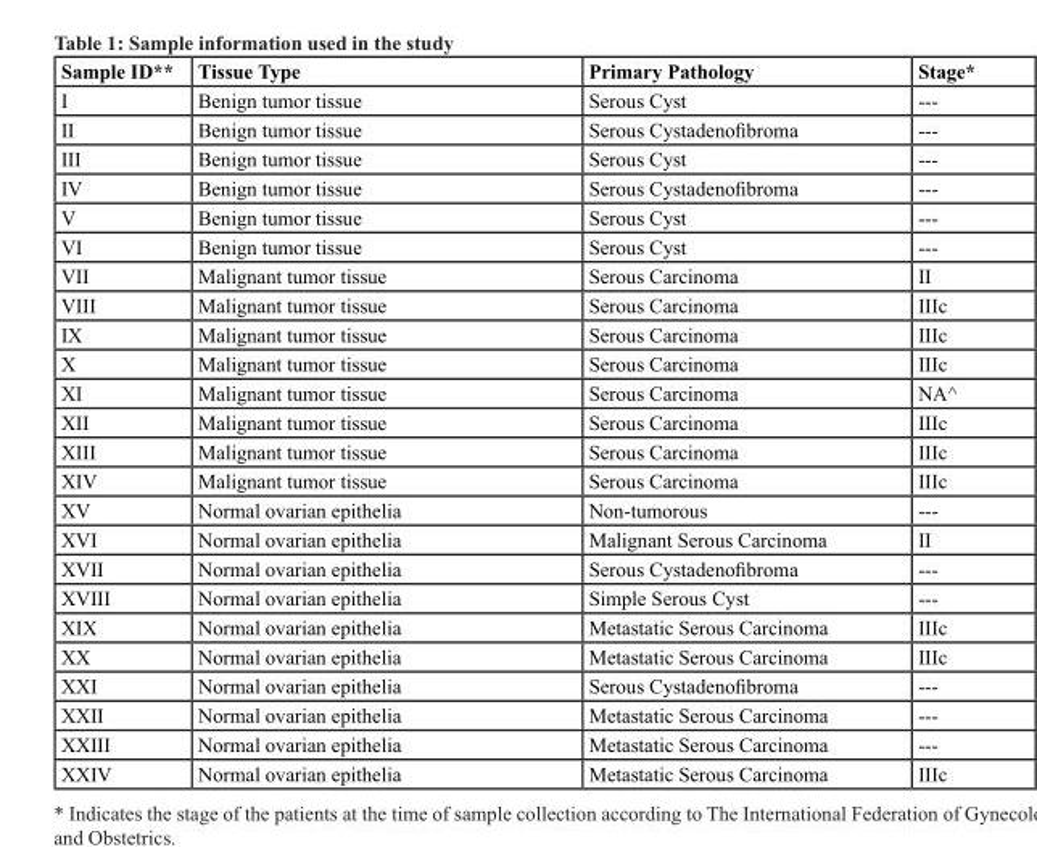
<table><thead><tr><td>Sample ID**</td><td>Tissue Type</td><td>Primary Pathology</td><td>Stage*</td></tr></thead><tbody><tr><td>I</td><td>Benign tumor tissue</td><td>Serous Cyst</td><td>---</td></tr><tr><td>II</td><td>Benign tumor tissue</td><td>Serous Cystadenofibroma</td><td>---</td></tr><tr><td>III</td><td>Benign tumor tissue</td><td>Serous Cyst</td><td>---</td></tr><tr><td>IV</td><td>Benign tumor tissue</td><td>Serous Cystadenofibroma</td><td>---</td></tr><tr><td>V</td><td>Benign tumor tissue</td><td>Serous Cyst</td><td>---</td></tr><tr><td>VI</td><td>Benign tumor tissue</td><td>Serous Cyst</td><td>---</td></tr><tr><td>VII</td><td>Malignant tumor tissue</td><td>Serous Carcinoma</td><td>II</td></tr><tr><td>VIII</td><td>Malignant tumor tissue</td><td>Serous Carcinoma</td><td>IIIc</td></tr><tr><td>IX</td><td>Malignant tumor tissue</td><td>Serous Carcinoma</td><td>IIIc</td></tr><tr><td>X</td><td>Malignant tumor tissue</td><td>Serous Carcinoma</td><td>IIIc</td></tr><tr><td>XI</td><td>Malignant tumor tissue</td><td>Serous Carcinoma</td><td>NA^</td></tr><tr><td>XII</td><td>Malignant tumor tissue</td><td>Serous Carcinoma</td><td>IIIc</td></tr><tr><td>XIII</td><td>Malignant tumor tissue</td><td>Serous Carcinoma</td><td>IIIc</td></tr><tr><td>XIV</td><td>Malignant tumor tissue</td><td>Serous Carcinoma</td><td>IIIc</td></tr><tr><td>XV</td><td>Normal ovarian epithelia</td><td>Non-tumorous</td><td>---</td></tr><tr><td>XVI</td><td>Normal ovarian epithelia</td><td>Malignant Serous Carcinoma</td><td>II</td></tr><tr><td>XVII</td><td>Normal ovarian epithelia</td><td>Serous Cystadenofibroma</td><td>---</td></tr><tr><td>XVIII</td><td>Normal ovarian epithelia</td><td>Simple Serous Cyst</td><td>---</td></tr><tr><td>XIX</td><td>Normal ovarian epithelia</td><td>Metastatic Serous Carcinoma</td><td>IIIc</td></tr><tr><td>XX</td><td>Normal ovarian epithelia</td><td>Metastatic Serous Carcinoma</td><td>IIIc</td></tr><tr><td>XXI</td><td>Normal ovarian epithelia</td><td>Serous Cystadenofibroma</td><td>---</td></tr><tr><td>XXII</td><td>Normal ovarian epithelia</td><td>Metastatic Serous Carcinoma</td><td>---</td></tr><tr><td>XXIII</td><td>Normal ovarian epithelia</td><td>Metastatic Serous Carcinoma</td><td>---</td></tr><tr><td>XXIV</td><td>Normal ovarian epithelia</td><td>Metastatic Serous Carcinoma</td><td>IIIc</td></tr></tbody></table>